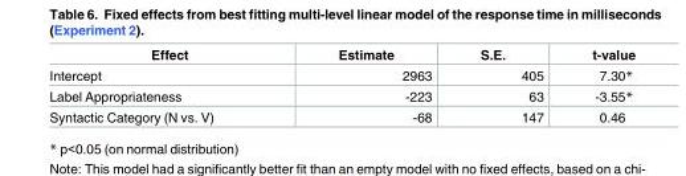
<table><thead><tr><td>Effect</td><td>Estimate</td><td>S.E.</td><td>t-value</td></tr></thead><tbody><tr><td>Intercept</td><td>2963</td><td>405</td><td>7.30*</td></tr><tr><td>Label Appropriateness</td><td>-223</td><td>63</td><td>-3.55*</td></tr><tr><td>Syntactic Category (N vs. V)</td><td>-68</td><td>147</td><td>0.46</td></tr></tbody></table>